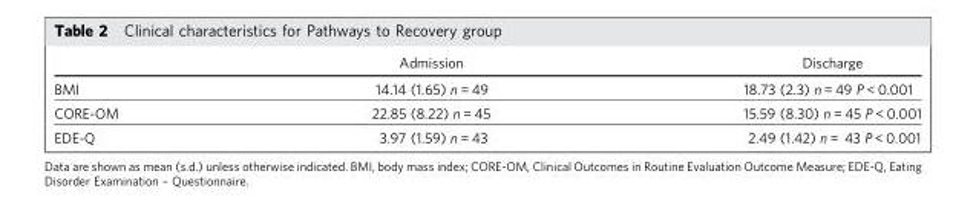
<table><thead><tr><td></td><td>Admission</td><td>Discharge</td></tr></thead><tbody><tr><td>BMI</td><td>14.14 (1.65) n = 49</td><td>18.73 (2.3) n = 49 P &lt; 0.001</td></tr><tr><td>CORE-OM</td><td>22.85 (8.22) n = 45</td><td>15.59 (8.30) n = 45 P &lt; 0.001</td></tr><tr><td>EDE-Q</td><td>3.97 (1.59) n = 43</td><td>2.49 (1.42) n = 43 P &lt; 0.001</td></tr></tbody></table>